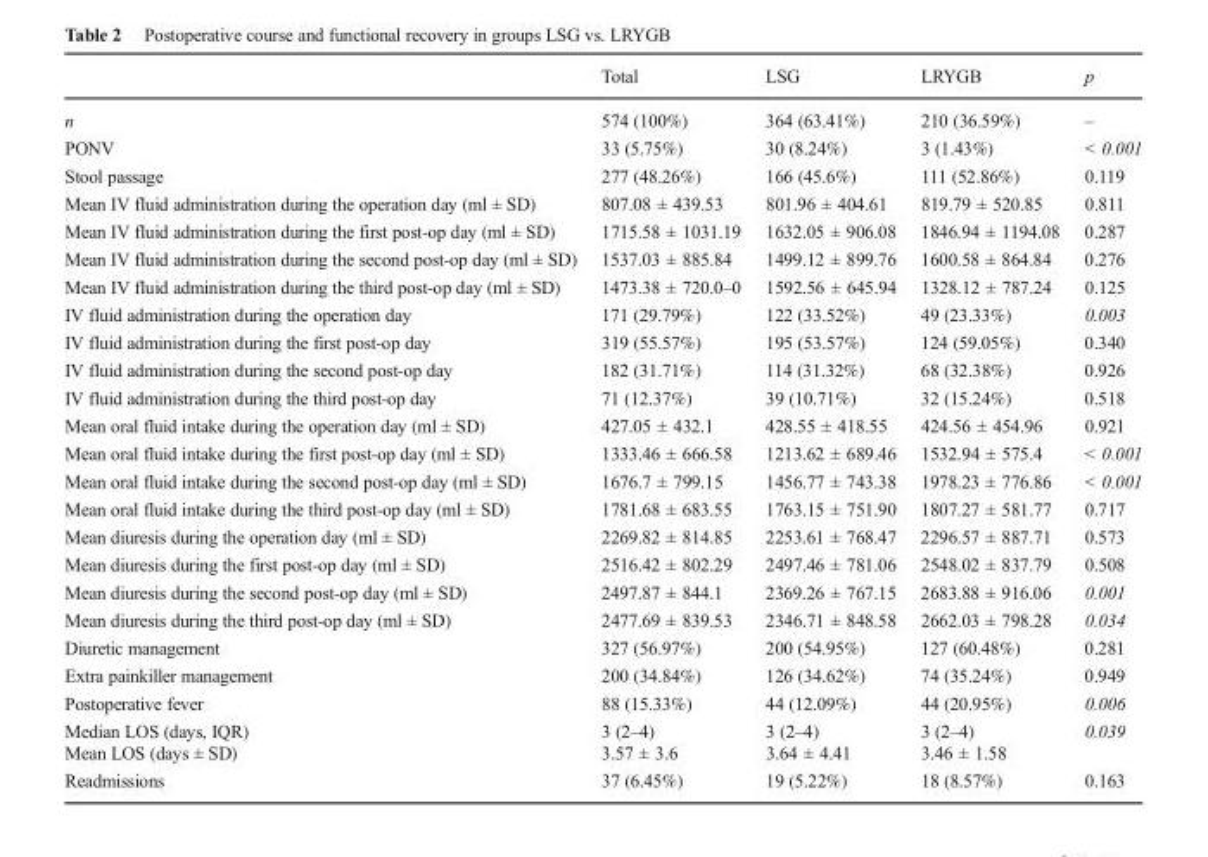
<table><thead><tr><td></td><td>Total</td><td>LSG</td><td>LRYGB</td><td>p</td></tr></thead><tbody><tr><td>n</td><td>574 (100%)</td><td>364 (63.41%)</td><td>210 (36.59%)</td><td>–</td></tr><tr><td>PONV</td><td>33 (5.75%)</td><td>30 (8.24%)</td><td>3 (1.43%)</td><td>&lt; 0.001</td></tr><tr><td>Stool passage</td><td>277 (48.26%)</td><td>166 (45.6%)</td><td>111 (52.86%)</td><td>0.119</td></tr><tr><td>Mean IV fluid administration during the operation day (ml ± SD)</td><td>807.08 ± 439.53</td><td>801.96 ± 404.61</td><td>819.79 ± 520.85</td><td>0.811</td></tr><tr><td>Mean IV fluid administration during the first post-op day (ml ± SD)</td><td>1715.58 ± 1031.19</td><td>1632.05 ± 906.08</td><td>1846.94 ± 1194.08</td><td>0.287</td></tr><tr><td>Mean IV fluid administration during the second post-op day (ml ± SD)</td><td>1537.03 ± 885.84</td><td>1499.12 ± 899.76</td><td>1600.58 ± 864.84</td><td>0.276</td></tr><tr><td>Mean IV fluid administration during the third post-op day (ml ± SD)</td><td>1473.38 ± 720.0–0</td><td>1592.56 ± 645.94</td><td>1328.12 ± 787.24</td><td>0.125</td></tr><tr><td>IV fluid administration during the operation day</td><td>171 (29.79%)</td><td>122 (33.52%)</td><td>49 (23.33%)</td><td>0.003</td></tr><tr><td>IV fluid administration during the first post-op day</td><td>319 (55.57%)</td><td>195 (53.57%)</td><td>124 (59.05%)</td><td>0.340</td></tr><tr><td>IV fluid administration during the second post-op day</td><td>182 (31.71%)</td><td>114 (31.32%)</td><td>68 (32.38%)</td><td>0.926</td></tr><tr><td>IV fluid administration during the third post-op day</td><td>71 (12.37%)</td><td>39 (10.71%)</td><td>32 (15.24%)</td><td>0.518</td></tr><tr><td>Mean oral fluid intake during the operation day (ml ± SD)</td><td>427.05 ± 432.1</td><td>428.55 ± 418.55</td><td>424.56 ± 454.96</td><td>0.921</td></tr><tr><td>Mean oral fluid intake during the first post-op day (ml ± SD)</td><td>1333.46 ± 666.58</td><td>1213.62 ± 689.46</td><td>1532.94 ± 575.4</td><td>&lt; 0.001</td></tr><tr><td>Mean oral fluid intake during the second post-op day (ml ± SD)</td><td>1676.7 ± 799.15</td><td>1456.77 ± 743.38</td><td>1978.23 ± 776.86</td><td>&lt; 0.001</td></tr><tr><td>Mean oral fluid intake during the third post-op day (ml ± SD)</td><td>1781.68 ± 683.55</td><td>1763.15 ± 751.90</td><td>1807.27 ± 581.77</td><td>0.717</td></tr><tr><td>Mean diuresis during the operation day (ml ± SD)</td><td>2269.82 ± 814.85</td><td>2253.61 ± 768.47</td><td>2296.57 ± 887.71</td><td>0.573</td></tr><tr><td>Mean diuresis during the first post-op day (ml ± SD)</td><td>2516.42 ± 802.29</td><td>2497.46 ± 781.06</td><td>2548.02 ± 837.79</td><td>0.508</td></tr><tr><td>Mean diuresis during the second post-op day (ml ± SD)</td><td>2497.87 ± 844.1</td><td>2369.26 ± 767.15</td><td>2683.88 ± 916.06</td><td>0.001</td></tr><tr><td>Mean diuresis during the third post-op day (ml ± SD)</td><td>2477.69 ± 839.53</td><td>2346.71 ± 848.58</td><td>2662.03 ± 798.28</td><td>0.034</td></tr><tr><td>Diuretic management</td><td>327 (56.97%)</td><td>200 (54.95%)</td><td>127 (60.48%)</td><td>0.281</td></tr><tr><td>Extra painkiller management</td><td>200 (34.84%)</td><td>126 (34.62%)</td><td>74 (35.24%)</td><td>0.949</td></tr><tr><td>Postoperative fever</td><td>88 (15.33%)</td><td>44 (12.09%)</td><td>44 (20.95%)</td><td>0.006</td></tr><tr><td>Median LOS (days, IQR)</td><td>3 (2–4)</td><td>3 (2–4)</td><td>3 (2–4)</td><td rowspan="2">0.039</td></tr><tr><td>Mean LOS (days ± SD)</td><td>3.57 ± 3.6</td><td>3.64 ± 4.41</td><td>3.46 ± 1.58</td></tr><tr><td>Readmissions</td><td>37 (6.45%)</td><td>19 (5.22%)</td><td>18 (8.57%)</td><td>0.163</td></tr></tbody></table>